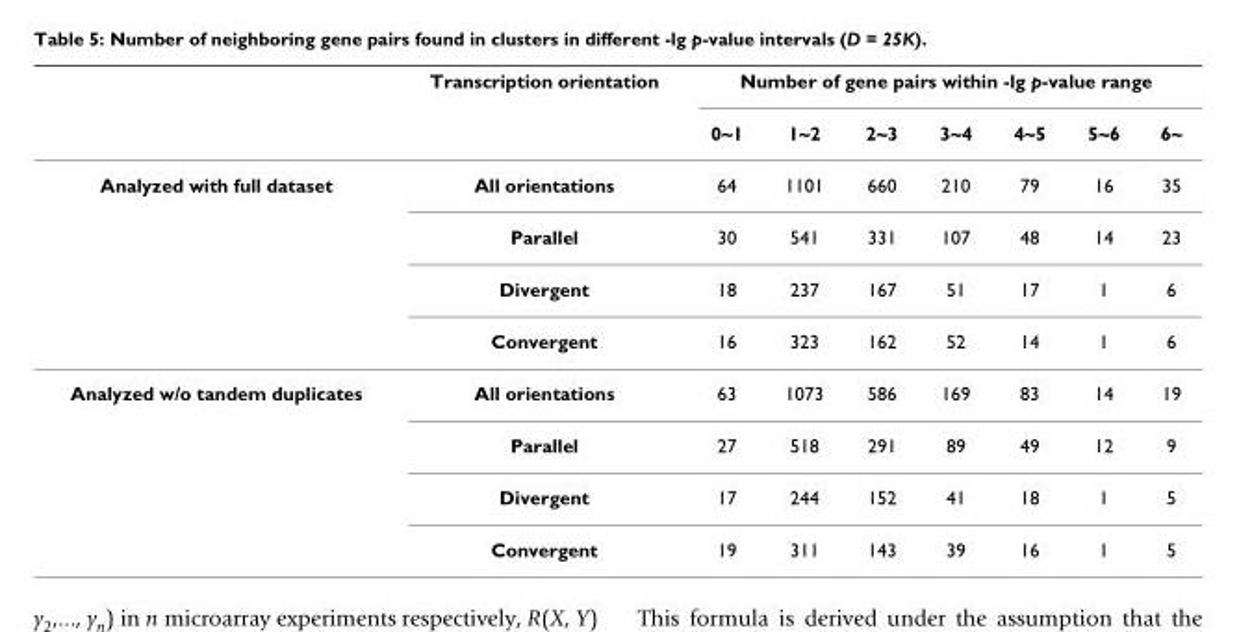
<table><thead><tr><td rowspan="2"></td><td rowspan="2">Transcription orientation</td><td colspan="7">Number of gene pairs within -lg p-value range</td></tr><tr><td>0~1</td><td>1~2</td><td>2~3</td><td>3~4</td><td>4~5</td><td>5~6</td><td>6~</td></tr></thead><tbody><tr><td rowspan="4">Analyzed with full dataset</td><td>All orientations</td><td>64</td><td>1101</td><td>660</td><td>210</td><td>79</td><td>16</td><td>35</td></tr><tr><td>Parallel</td><td>30</td><td>541</td><td>331</td><td>107</td><td>48</td><td>14</td><td>23</td></tr><tr><td>Divergent</td><td>18</td><td>237</td><td>167</td><td>51</td><td>17</td><td>1</td><td>6</td></tr><tr><td>Convergent</td><td>16</td><td>323</td><td>162</td><td>52</td><td>14</td><td>1</td><td>6</td></tr><tr><td rowspan="4">Analyzed w/o tandem duplicates</td><td>All orientations</td><td>63</td><td>1073</td><td>586</td><td>169</td><td>83</td><td>14</td><td>19</td></tr><tr><td>Parallel</td><td>27</td><td>518</td><td>291</td><td>89</td><td>49</td><td>12</td><td>9</td></tr><tr><td>Divergent</td><td>17</td><td>244</td><td>152</td><td>41</td><td>18</td><td>1</td><td>5</td></tr><tr><td>Convergent</td><td>19</td><td>311</td><td>143</td><td>39</td><td>16</td><td>1</td><td>5</td></tr></tbody></table>